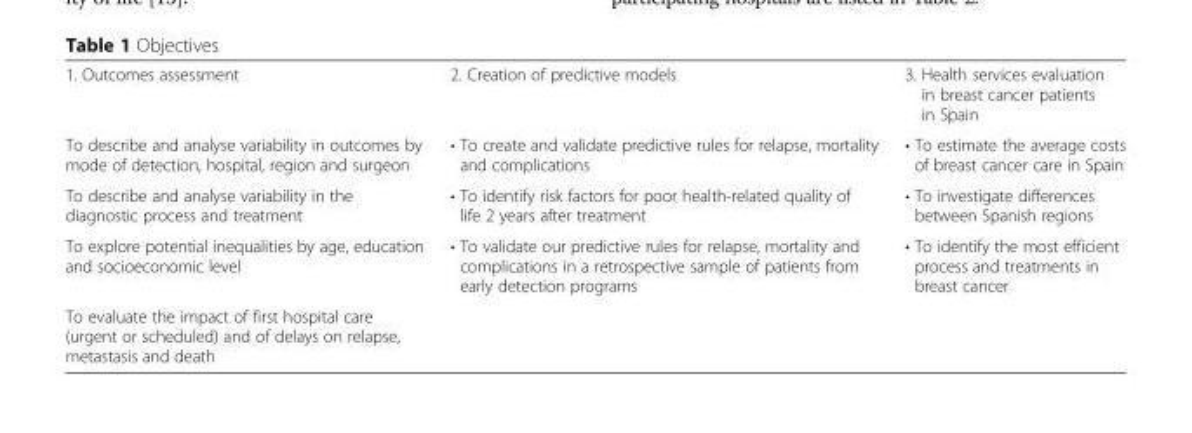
<table><tbody><tr><td>1. Outcomes assessment</td><td>2. Creation of predictive models</td><td>3. Health services evaluation in breast cancer patients in Spain</td></tr><tr><td>To describe and analyse variability in outcomes by mode of detection, hospital, region and surgeon</td><td>• To create and validate predictive rules for relapse, mortality and complications</td><td>• To estimate the average costs of breast cancer care in Spain</td></tr><tr><td>To describe and analyse variability in the diagnostic process and treatment</td><td>• To identify risk factors for poor health-related quality of life 2 years after treatment</td><td>• To investigate differences between Spanish regions</td></tr><tr><td>To explore potential inequalities by age, education and socioeconomic level</td><td>• To validate our predictive rules for relapse, mortality and complications in a retrospective sample of patients from early detection programs</td><td>• To identify the most efficient process and treatments in breast cancer</td></tr><tr><td>To evaluate the impact of first hospital care (urgent or scheduled) and of delays on relapse, metastasis and death</td><td></td><td></td></tr></tbody></table>